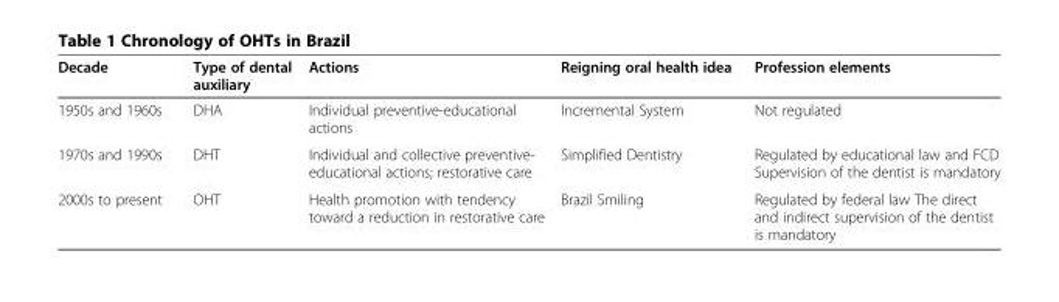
<table><thead><tr><td>Decade</td><td>Type of dental auxiliary</td><td>Actions</td><td>Reigning oral health idea</td><td>Profession elements</td></tr></thead><tbody><tr><td>1950s and 1960s</td><td>DHA</td><td>Individual preventive-educational actions</td><td>Incremental System</td><td>Not regulated</td></tr><tr><td>1970s and 1990s</td><td>DHT</td><td>Individual and collective preventive- educational actions; restorative care</td><td>Simplified Dentistry</td><td>Regulated by educational law and FCD Supervision of the dentist is mandatory</td></tr><tr><td>2000s to present</td><td>OHT</td><td>Health promotion with tendency toward a reduction in restorative care</td><td>Brazil Smiling</td><td>Regulated by federal law The direct and indirect supervision of the dentist is mandatory</td></tr></tbody></table>